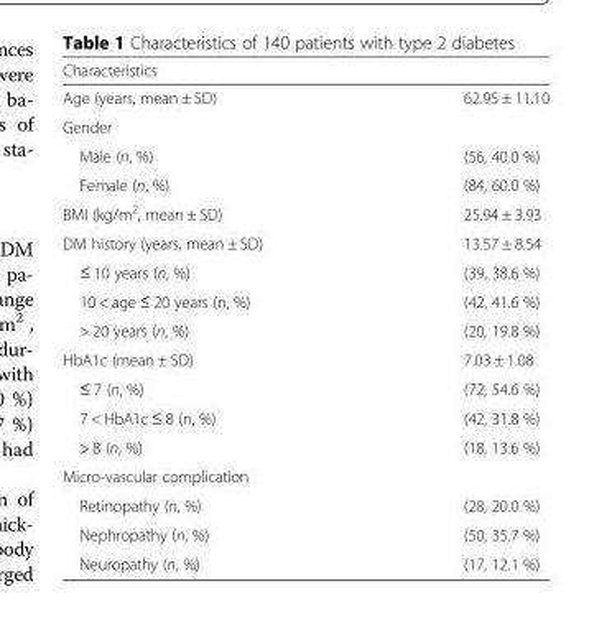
<table><thead><tr><td>Characteristics</td><td></td></tr></thead><tbody><tr><td>Age (years, mean ± SD)</td><td>62.95 ± 11.10</td></tr><tr><td colspan="2">Gender</td></tr><tr><td>Male (n, %)</td><td>(56, 40.0 %)</td></tr><tr><td>Female (n, %)</td><td>(84, 60.0 %)</td></tr><tr><td>BMI (kg/m<sup>2</sup>, mean ± SD)</td><td>25.94 ± 3.93</td></tr><tr><td>DM history (years, mean ± SD)</td><td>13.57 ± 8.54</td></tr><tr><td>≤ 10 years (n, %)</td><td>(39, 38.6 %)</td></tr><tr><td>10 &lt; age ≤ 20 years (n, %)</td><td>(42, 41.6 %)</td></tr><tr><td>&gt; 20 years (n, %)</td><td>(20, 19.8 %)</td></tr><tr><td>HbA1c (mean ± SD)</td><td>7.03 ± 1.08</td></tr><tr><td>≤ 7 (n, %)</td><td>(72, 54.6 %)</td></tr><tr><td>7 &lt; HbA1c ≤ 8 (n, %)</td><td>(42, 31.8 %)</td></tr><tr><td>&gt; 8 (n, %)</td><td>(18, 13.6 %)</td></tr><tr><td colspan="2">Micro-vascular complication</td></tr><tr><td>Retinopathy (n, %)</td><td>(28, 20.0 %)</td></tr><tr><td>Nephropathy (n, %)</td><td>(50, 35.7 %)</td></tr><tr><td>Neuropathy (n, %)</td><td>(17, 12.1 %)</td></tr></tbody></table>